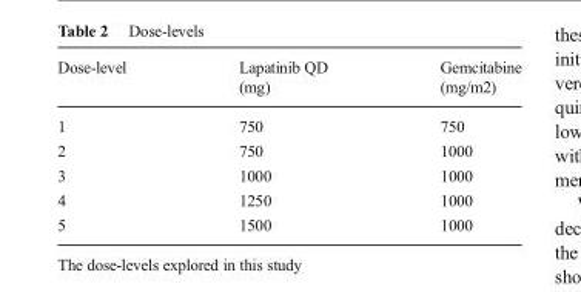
<table><thead><tr><td>Dose-level</td><td>Lapatinib QD (mg)</td><td>Gemcitabine (mg/m2)</td></tr></thead><tbody><tr><td>1</td><td>750</td><td>750</td></tr><tr><td>2</td><td>750</td><td>1000</td></tr><tr><td>3</td><td>1000</td><td>1000</td></tr><tr><td>4</td><td>1250</td><td>1000</td></tr><tr><td>5</td><td>1500</td><td>1000</td></tr></tbody></table>